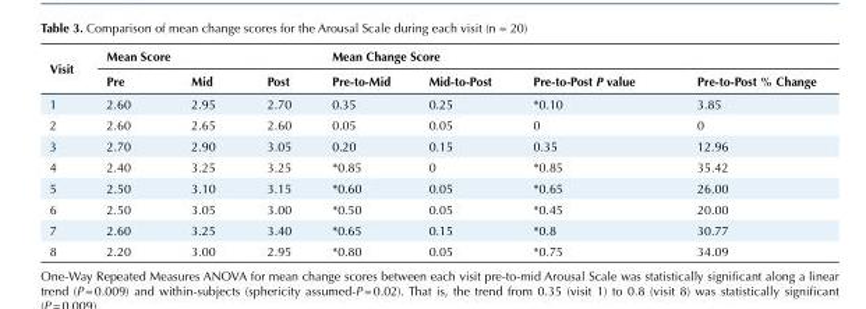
<table><tbody><tr><td rowspan="2">Visit</td><td colspan="3">Mean Score</td><td colspan="4">Mean Change Score</td></tr><tr><td>Pre</td><td>Mid</td><td>Post</td><td>Pre-to-Mid</td><td>Mid-to-Post</td><td>Pre-to-Post P value</td><td>Pre-to-Post % Change</td></tr><tr><td>1</td><td>2.60</td><td>2.95</td><td>2.70</td><td>0.35</td><td>0.25</td><td>*0.10</td><td>3.85</td></tr><tr><td>2</td><td>2.60</td><td>2.65</td><td>2.60</td><td>0.05</td><td>0.05</td><td>0</td><td>0</td></tr><tr><td>3</td><td>2.70</td><td>2.90</td><td>3.05</td><td>0.20</td><td>0.15</td><td>0.35</td><td>12.96</td></tr><tr><td>4</td><td>2.40</td><td>3.25</td><td>3.25</td><td>*0.85</td><td>0</td><td>*0.85</td><td>35.42</td></tr><tr><td>5</td><td>2.50</td><td>3.10</td><td>3.15</td><td>*0.60</td><td>0.05</td><td>*0.65</td><td>26.00</td></tr><tr><td>6</td><td>2.50</td><td>3.05</td><td>3.00</td><td>*0.50</td><td>0.05</td><td>*0.45</td><td>20.00</td></tr><tr><td>7</td><td>2.60</td><td>3.25</td><td>3.40</td><td>*0.65</td><td>0.15</td><td>*0.8</td><td>30.77</td></tr><tr><td>8</td><td>2.20</td><td>3.00</td><td>2.95</td><td>*0.80</td><td>0.05</td><td>*0.75</td><td>34.09</td></tr></tbody></table>